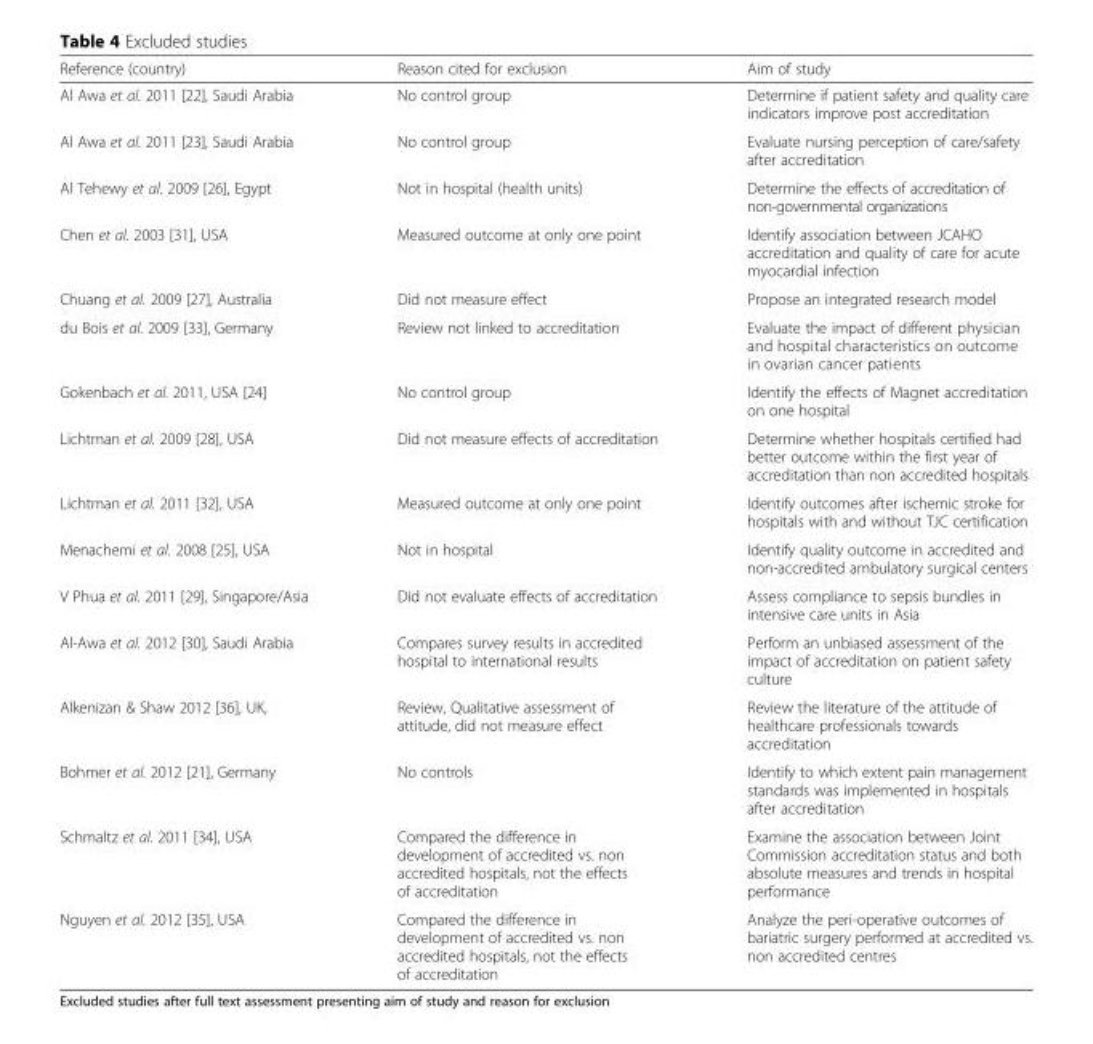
<table><thead><tr><td>Reference (country)</td><td>Reason cited for exclusion</td><td>Aim of study</td></tr></thead><tbody><tr><td>Al Awa et al. 2011 [22], Saudi Arabia</td><td>No control group</td><td>Determine if patient safety and quality care indicators improve post accreditation</td></tr><tr><td>Al Awa et al. 2011 [23], Saudi Arabia</td><td>No control group</td><td>Evaluate nursing perception of care/safety after accreditation</td></tr><tr><td>Al Tehewy et al. 2009 [26], Egypt</td><td>Not in hospital (health units)</td><td>Determine the effects of accreditation of non-governmental organizations</td></tr><tr><td>Chen et al. 2003 [31], USA</td><td>Measured outcome at only one point</td><td>Identify association between JCAHO accreditation and quality of care for acute myocardial infection</td></tr><tr><td>Chuang et al. 2009 [27], Australia</td><td>Did not measure effect</td><td>Propose an integrated research model</td></tr><tr><td>du Bois et al. 2009 [33], Germany</td><td>Review not linked to accreditation</td><td>Evaluate the impact of different physician and hospital characteristics on outcome in ovarian cancer patients</td></tr><tr><td>Gokenbach et al. 2011, USA [24]</td><td>No control group</td><td>Identify the effects of Magnet accreditation on one hospital</td></tr><tr><td>Lichtman et al. 2009 [28], USA</td><td>Did not measure effects of accreditation</td><td>Determine whether hospitals certified had better outcome within the first year of accreditation than non accredited hospitals</td></tr><tr><td>Lichtman et al. 2011 [32], USA</td><td>Measured outcome at only one point</td><td>Identify outcomes after ischemic stroke for hospitals with and without TJC certification</td></tr><tr><td>Menachemi et al. 2008 [25], USA</td><td>Not in hospital</td><td>Identify quality outcome in accredited and non-accredited ambulatory surgical centers</td></tr><tr><td>V Phua et al. 2011 [29], Singapore/Asia</td><td>Did not evaluate effects of accreditation</td><td>Assess compliance to sepsis bundles in intensive care units in Asia</td></tr><tr><td>Al-Awa et al. 2012 [30], Saudi Arabia</td><td>Compares survey results in accredited hospital to international results</td><td>Perform an unbiased assessment of the impact of accreditation on patient safety culture</td></tr><tr><td>Alkenizan &amp; Shaw 2012 [36], UK,</td><td>Review, Qualitative assessment of attitude, did not measure effect</td><td>Review the literature of the attitude of healthcare professionals towards accreditation</td></tr><tr><td>Bohmer et al. 2012 [21], Germany</td><td>No controls</td><td>Identify to which extent pain management standards was implemented in hospitals after accreditation</td></tr><tr><td>Schmaltz et al. 2011 [34], USA</td><td>Compared the difference in development of accredited vs. non accredited hospitals, not the effects of accreditation</td><td>Examine the association between Joint Commission accreditation status and both absolute measures and trends in hospital performance</td></tr><tr><td>Nguyen et al. 2012 [35], USA</td><td>Compared the difference in development of accredited vs. non accredited hospitals, not the effects of accreditation</td><td>Analyze the peri-operative outcomes of bariatric surgery performed at accredited vs. non accredited centres</td></tr></tbody></table>